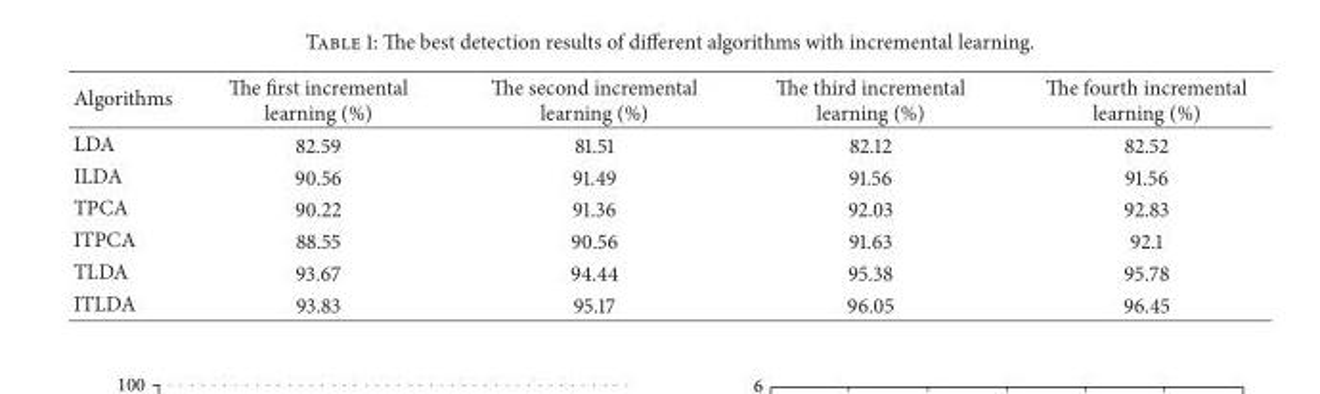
<table><thead><tr><td>Algorithms</td><td>The first incremental learning (%)</td><td>The second incremental learning (%)</td><td>The third incremental learning (%)</td><td>The fourth incremental learning (%)</td></tr></thead><tbody><tr><td>LDA</td><td>82.59</td><td>81.51</td><td>82.12</td><td>82.52</td></tr><tr><td>ILDA</td><td>90.56</td><td>91.49</td><td>91.56</td><td>91.56</td></tr><tr><td>TPCA</td><td>90.22</td><td>91.36</td><td>92.03</td><td>92.83</td></tr><tr><td>ITPCA</td><td>88.55</td><td>90.56</td><td>91.63</td><td>92.1</td></tr><tr><td>TLDA</td><td>93.67</td><td>94.44</td><td>95.38</td><td>95.78</td></tr><tr><td>ITLDA</td><td>93.83</td><td>95.17</td><td>96.05</td><td>96.45</td></tr></tbody></table>